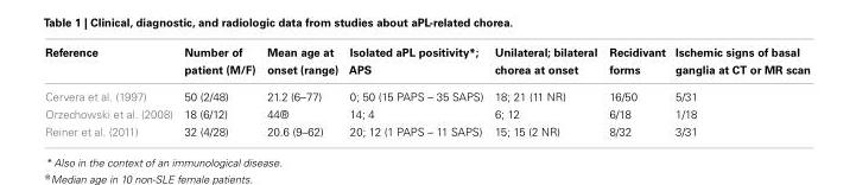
<table><thead><tr><td>Reference</td><td>Number of patient (M/F)</td><td>Mean age at onset (range)</td><td>Isolated aPL positivity*; APS</td><td>Unilateral; bilateral chorea at onset</td><td>Recidivant forms</td><td>Ischemic signs of basal ganglia at CT or MR scan</td></tr></thead><tbody><tr><td>Cervera et al. (1997)</td><td>50 (2/48)</td><td>21.2 (6–77)</td><td>0; 50 (15 PAPS – 35 SAPS)</td><td>18; 21 (11 NR)</td><td>16/50</td><td>5/31</td></tr><tr><td>Orzechowski et al. (2008)</td><td>18 (6/12)</td><td>44<sup>®</sup></td><td>14; 4</td><td>6; 12</td><td>6/18</td><td>1/18</td></tr><tr><td>Reiner et al. (2011)</td><td>32 (4/28)</td><td>20.6 (9–62)</td><td>20; 12 (1 PAPS – 11 SAPS)</td><td>15; 15 (2 NR)</td><td>8/32</td><td>3/31</td></tr></tbody></table>